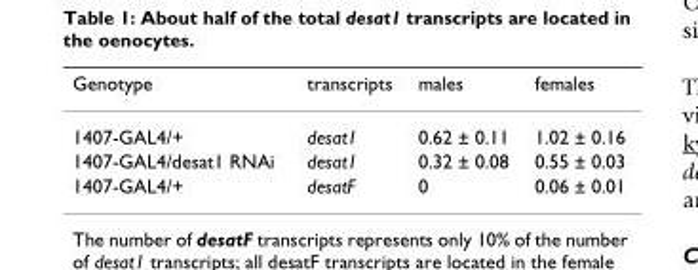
<table><thead><tr><td>Genotype</td><td>transcripts</td><td>males</td><td>females</td></tr></thead><tbody><tr><td>1407-GAL4/+</td><td>desat1</td><td>0.62 ± 0.11</td><td>1.02 ± 0.16</td></tr><tr><td>1407-GAL4/desat1 RNAi</td><td>desat1</td><td>0.32 ± 0.08</td><td>0.55 ± 0.03</td></tr><tr><td>1407-GAL4/+</td><td>desatF</td><td>0</td><td>0.06 ± 0.01</td></tr></tbody></table>